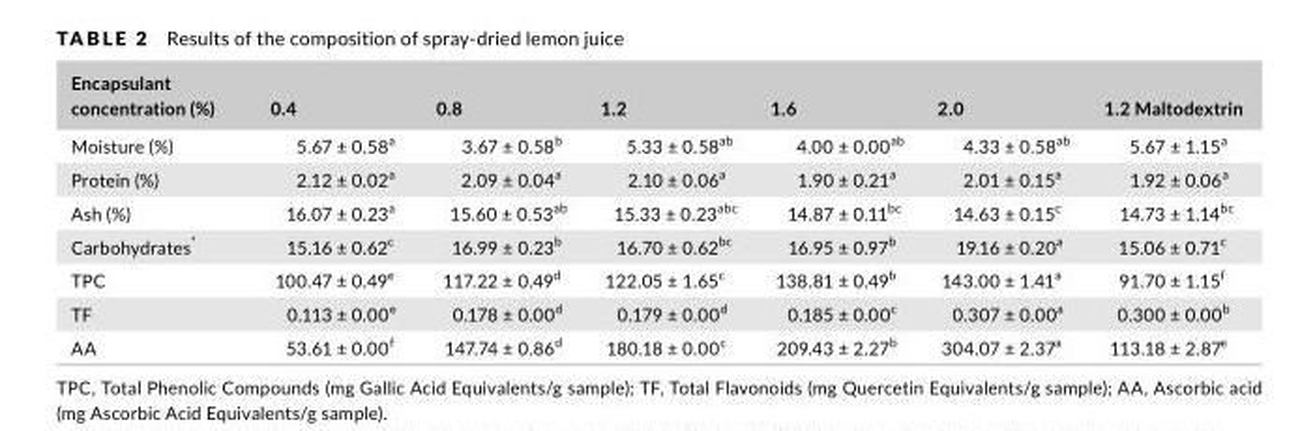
<table><thead><tr><td>Encapsulant concentration (%)</td><td>0.4</td><td>0.8</td><td>1.2</td><td>1.6</td><td>2.0</td><td>1.2 Maltodextrin</td></tr></thead><tbody><tr><td>Moisture (%)</td><td>5.67 ± 0.58<sup>a</sup></td><td>3.67 ± 0.58<sup>b</sup></td><td>5.33 ± 0.58<sup>ab</sup></td><td>4.00 ± 0.00<sup>ab</sup></td><td>4.33 ± 0.58<sup>ab</sup></td><td>5.67 ± 1.15<sup>a</sup></td></tr><tr><td>Protein (%)</td><td>2.12 ± 0.02<sup>a</sup></td><td>2.09 ± 0.04<sup>a</sup></td><td>2.10 ± 0.06<sup>a</sup></td><td>1.90 ± 0.21<sup>a</sup></td><td>2.01 ± 0.15<sup>a</sup></td><td>1.92 ± 0.06<sup>a</sup></td></tr><tr><td>Ash (%)</td><td>16.07 ± 0.23<sup>a</sup></td><td>15.60 ± 0.53<sup>ab</sup></td><td>15.33 ± 0.23<sup>abc</sup></td><td>14.87 ± 0.11<sup>bc</sup></td><td>14.63 ± 0.15<sup>c</sup></td><td>14.73 ± 1.14<sup>bc</sup></td></tr><tr><td>Carbohydrates*</td><td>15.16 ± 0.62<sup>c</sup></td><td>16.99 ± 0.23<sup>b</sup></td><td>16.70 ± 0.62<sup>bc</sup></td><td>16.95 ± 0.97<sup>b</sup></td><td>19.16 ± 0.20<sup>a</sup></td><td>15.06 ± 0.71<sup>c</sup></td></tr><tr><td>TPC</td><td>100.47 ± 0.49<sup>e</sup></td><td>117.22 ± 0.49<sup>d</sup></td><td>122.05 ± 1.65<sup>c</sup></td><td>138.81 ± 0.49<sup>b</sup></td><td>143.00 ± 1.41<sup>a</sup></td><td>91.70 ± 1.15<sup>f</sup></td></tr><tr><td>TF</td><td>0.113 ± 0.00<sup>e</sup></td><td>0.178 ± 0.00<sup>d</sup></td><td>0.179 ± 0.00<sup>d</sup></td><td>0.185 ± 0.00<sup>c</sup></td><td>0.307 ± 0.00<sup>a</sup></td><td>0.300 ± 0.00<sup>b</sup></td></tr><tr><td>AA</td><td>53.61 ± 0.00<sup>f</sup></td><td>147.74 ± 0.86<sup>d</sup></td><td>180.18 ± 0.00<sup>c</sup></td><td>209.43 ± 2.27<sup>b</sup></td><td>304.07 ± 2.37<sup>a</sup></td><td>113.18 ± 2.87<sup>e</sup></td></tr></tbody></table>